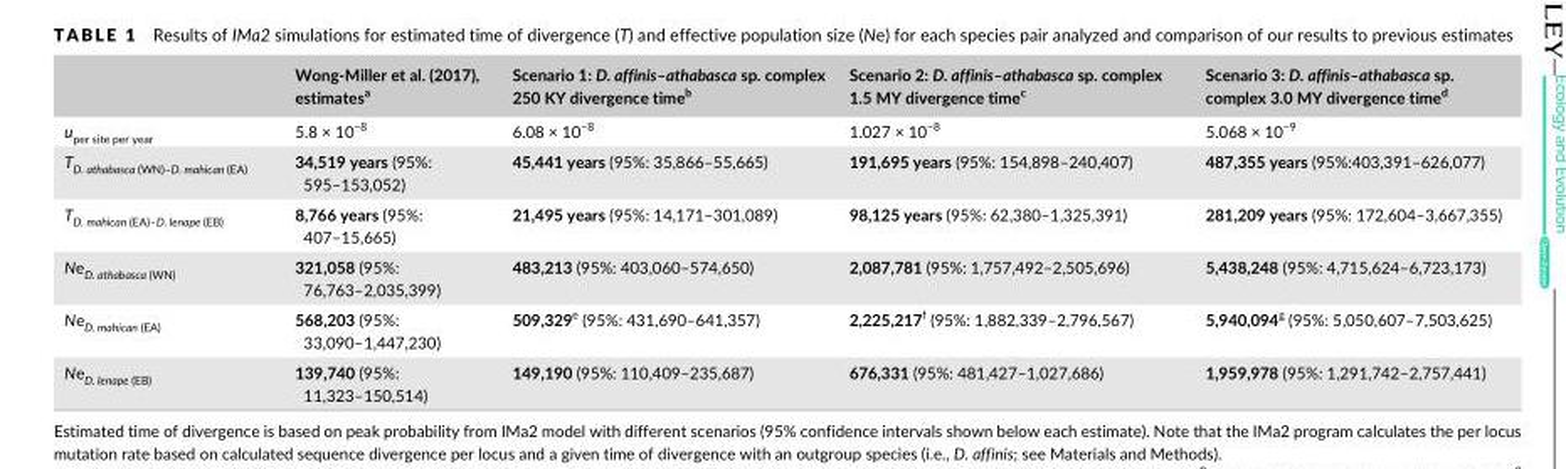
<table><thead><tr><td></td><td>Wong- Miller et al. (2017), estimates<sup>a</sup></td><td>Scenario 1: D. affinis–athabasca sp. complex 250 KY divergence time<sup>b</sup></td><td>Scenario 2: D. affinis–athabasca sp. complex 1.5 MY divergence time<sup>c</sup></td><td>Scenario 3: D. affinis–athabasca sp. complex 3.0 MY divergence time<sup>d</sup></td></tr></thead><tbody><tr><td>u<sub>per site per year</sub></td><td>5.8 × 10<sup>−8</sup></td><td>6.08 × 10<sup>−8</sup></td><td>1.027 × 10<sup>−8</sup></td><td>5.068 × 10<sup>−9</sup></td></tr><tr><td>T<sub>D. athabasca (WN)–D. mahican (EA)</sub></td><td>34,519 years (95%: 595–153,052)</td><td>45,441 years (95%: 35,866–55,665)</td><td>191,695 years (95%: 154,898–240,407)</td><td>487,355 years (95%:403,391–626,077)</td></tr><tr><td>T<sub>D. mahican (EA)–D. lenape (EB)</sub></td><td>8,766 years (95%: 407–15,665)</td><td>21,495 years (95%: 14,171–301,089)</td><td>98,125 years (95%: 62,380–1,325,391)</td><td>281,209 years (95%: 172,604–3,667,355)</td></tr><tr><td>Ne<sub>D. athabasca (WN)</sub></td><td>321,058 (95%: 76,763–2,035,399)</td><td>483,213 (95%: 403,060–574,650)</td><td>2,087,781 (95%: 1,757,492–2,505,696)</td><td>5,438,248 (95%: 4,715,624–6,723,173)</td></tr><tr><td>Ne<sub>D. mahican (EA)</sub></td><td>568,203 (95%: 33,090–1,447,230)</td><td>509,329e (95%: 431,690–641,357)</td><td>2,225,217f (95%: 1,882,339–2,796,567)</td><td>5,940,094g (95%: 5,050,607–7,503,625)</td></tr><tr><td>Ne<sub>D. lenape (EB)</sub></td><td>139,740 (95%: 11,323–150,514)</td><td>149,190 (95%: 110,409–235,687)</td><td>676,331 (95%: 481,427–1,027,686)</td><td>1,959,978 (95%: 1,291,742–2,757,441)</td></tr></tbody></table>